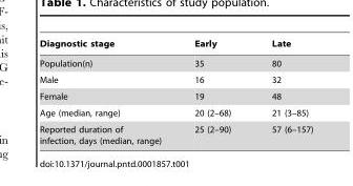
<table><thead><tr><td>Diagnostic stage</td><td>Early</td><td>Late</td></tr></thead><tbody><tr><td>Population(n)</td><td>35</td><td>80</td></tr><tr><td>Male</td><td>16</td><td>32</td></tr><tr><td>Female</td><td>19</td><td>48</td></tr><tr><td>Age (median, range)</td><td>20 (2–68)</td><td>21 (3–85)</td></tr><tr><td>Reported duration of infection, days (median, range)</td><td>25 (2–90)</td><td>57 (6–157)</td></tr></tbody></table>